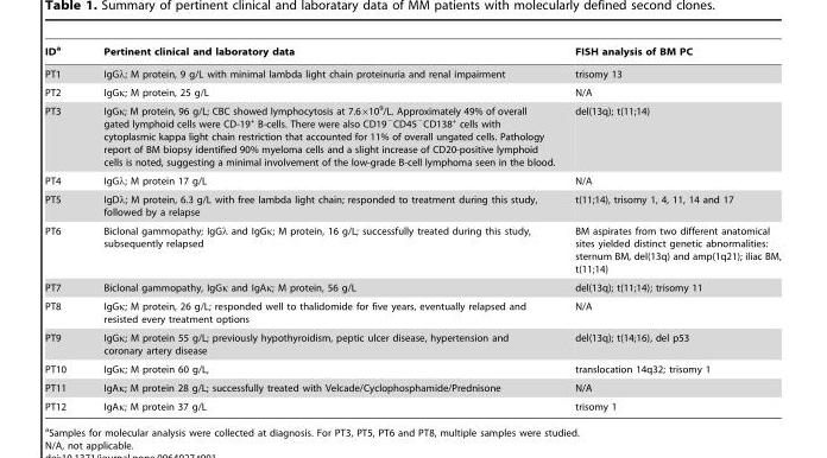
<table><thead><tr><td>ID<sup>a</sup></td><td>Pertinent clinical and laboratory data</td><td>FISH analysis of BM PC</td></tr></thead><tbody><tr><td>PT1</td><td>IgGλ; M protein, 9 g/L with minimal lambda light chain proteinuria and renal impairment</td><td>trisomy 13</td></tr><tr><td>PT2</td><td>IgGκ; M protein, 25 g/L</td><td>N/A</td></tr><tr><td>PT3</td><td>IgGκ; M protein, 96 g/L; CBC showed lymphocytosis at 7.6×10<sup>9</sup>/L. Approximately 49% of overall gated lymphoid cells were CD-19<sup>+</sup> B-cells. There were also CD19<sup>−</sup>CD45<sup>−</sup>CD138<sup>+</sup> cells with cytoplasmic kappa light chain restriction that accounted for 11% of overall ungated cells. Pathology report of BM biopsy identified 90% myeloma cells and a slight increase of CD20-positive lymphoid cells is noted, suggesting a minimal involvement of the low-grade B-cell lymphoma seen in the blood.</td><td>del(13q); t(11;14)</td></tr><tr><td>PT4</td><td>IgGλ; M protein 17 g/L</td><td>N/A</td></tr><tr><td>PT5</td><td>IgDλ; M protein, 6.3 g/L with free lambda light chain; responded to treatment during this study, followed by a relapse</td><td>t(11;14), trisomy 1, 4, 11, 14 and 17</td></tr><tr><td>PT6</td><td>Biclonal gammopathy; IgGλ and IgGκ; M protein, 16 g/L; successfully treated during this study, subsequently relapsed</td><td>BM aspirates from two different anatomical sites yielded distinct genetic abnormalities: sternum BM, del(13q) and amp(1q21); iliac BM, t(11;14)</td></tr><tr><td>PT7</td><td>Biclonal gammopathy, IgGκ and IgAκ; M protein, 56 g/L</td><td>del(13q); t(11;14); trisomy 11</td></tr><tr><td>PT8</td><td>IgGκ; M protein, 26 g/L; responded well to thalidomide for five years, eventually relapsed and resisted every treatment options</td><td>N/A</td></tr><tr><td>PT9</td><td>IgGκ; M protein 55 g/L; previously hypothyroidism, peptic ulcer disease, hypertension and coronary artery disease</td><td>del(13q); t(14;16), del p53</td></tr><tr><td>PT10</td><td>IgGκ; M protein 60 g/L,</td><td>translocation 14q32; trisomy 1</td></tr><tr><td>PT11</td><td>IgAκ; M protein 28 g/L; successfully treated with Velcade/Cyclophosphamide/Prednisone</td><td>N/A</td></tr><tr><td>PT12</td><td>IgAκ; M protein 37 g/L</td><td>trisomy 1</td></tr></tbody></table>